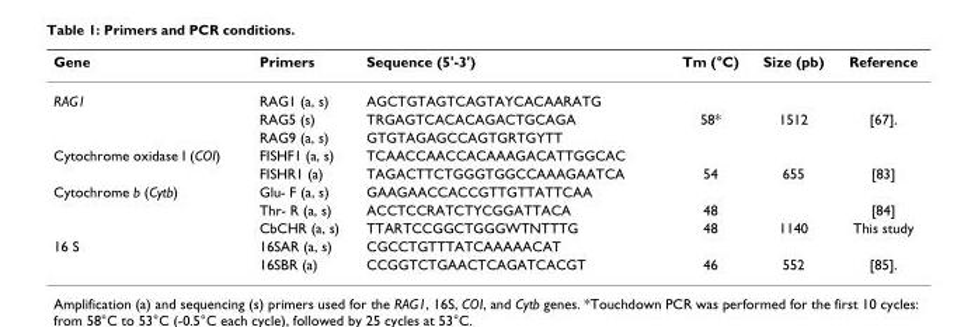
<table><thead><tr><td>Gene</td><td>Primers</td><td>Sequence (5&#x27;-3&#x27;)</td><td>Tm (°C)</td><td>Size (pb)</td><td>Reference</td></tr></thead><tbody><tr><td rowspan="3">RAG1</td><td>RAG1 (a, s)</td><td>AGCTGTAGTCAGTAYCACAARATG</td><td></td><td></td><td></td></tr><tr><td>RAG5 (s)</td><td>TRGAGTCACACAGACTGCAGA</td><td>58*</td><td>1512</td><td>[67].</td></tr><tr><td>RAG9 (a, s)</td><td>GTGTAGAGCCAGTGRTGYTT</td><td></td><td></td><td></td></tr><tr><td rowspan="2">Cytochrome oxidase I (COI)</td><td>FISHF1 (a, s)</td><td>TCAACCAACCACAAAGACATTGGCAC</td><td></td><td></td><td></td></tr><tr><td>FISHR1 (a)</td><td>TAGACTTCTGGGTGGCCAAAGAATCA</td><td>54</td><td>655</td><td>[83]</td></tr><tr><td rowspan="3">Cytochrome b (Cytb)</td><td>Glu- F (a, s)</td><td>GAAGAACCACCGTTGTTATTCAA</td><td></td><td></td><td></td></tr><tr><td>Thr- R (a, s)</td><td>ACCTCCRATCTYCGGATTACA</td><td>48</td><td></td><td>[84]</td></tr><tr><td>CbCHR (a, s)</td><td>TTARTCCGGCTGGGWTNTTTG</td><td>48</td><td>1140</td><td>This study</td></tr><tr><td rowspan="2">16 S</td><td>16SAR (a, s)</td><td>CGCCTGTTTATCAAAAACAT</td><td></td><td></td><td></td></tr><tr><td>16SBR (a)</td><td>CCGGTCTGAACTCAGATCACGT</td><td>46</td><td>552</td><td>[85].</td></tr></tbody></table>